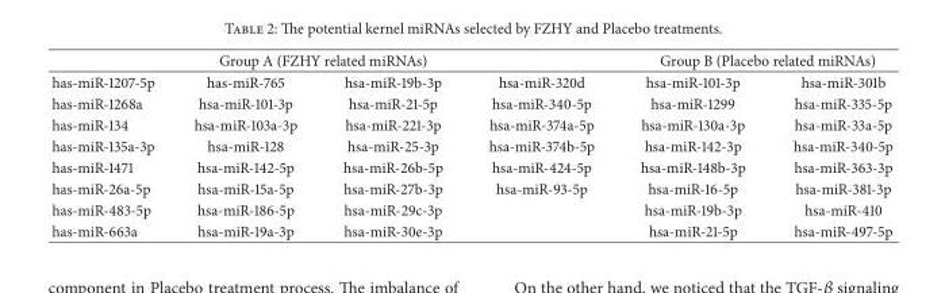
<table><thead><tr><td colspan="4">Group A (FZHY related miRNAs)</td><td colspan="2">Group B (Placebo related miRNAs)</td></tr><tr><td>has-miR-1207-5p</td><td>has-miR-765</td><td>hsa-miR-19b-3p</td><td>hsa-miR-320d</td><td>hsa-miR-101-3p</td><td>hsa-miR-301b</td></tr></thead><tbody><tr><td>has-miR-1268a</td><td>hsa-miR-101-3p</td><td>hsa-miR-21-5p</td><td>hsa-miR-340-5p</td><td>hsa-miR-1299</td><td>hsa-miR-335-5p</td></tr><tr><td>has-miR-134</td><td>hsa-miR-103a-3p</td><td>hsa-miR-221-3p</td><td>hsa-miR-374a-5p</td><td>hsa-miR-130a-3p</td><td>hsa-miR-33a-5p</td></tr><tr><td>has-miR-135a-3p</td><td>hsa-miR-128</td><td>hsa-miR-25-3p</td><td>hsa-miR-374b-5p</td><td>hsa-miR-142-3p</td><td>hsa-miR-340-5p</td></tr><tr><td>has-miR-1471</td><td>hsa-miR-142-5p</td><td>hsa-miR-26b-5p</td><td>hsa-miR-424-5p</td><td>hsa-miR-148b-3p</td><td>hsa-miR-363-3p</td></tr><tr><td>has-miR-26a-5p</td><td>hsa-miR-15a-5p</td><td>hsa-miR-27b-3p</td><td>hsa-miR-93-5p</td><td>hsa-miR-16-5p</td><td>hsa-miR-381-3p</td></tr><tr><td>has-miR-483-5p</td><td>hsa-miR-186-5p</td><td>hsa-miR-29c-3p</td><td></td><td>hsa-miR-19b-3p</td><td>hsa-miR-410</td></tr><tr><td>has-miR-663a</td><td>hsa-miR-19a-3p</td><td>hsa-miR-30e-3p</td><td></td><td>hsa-miR-21-5p</td><td>hsa-miR-497-5p</td></tr></tbody></table>